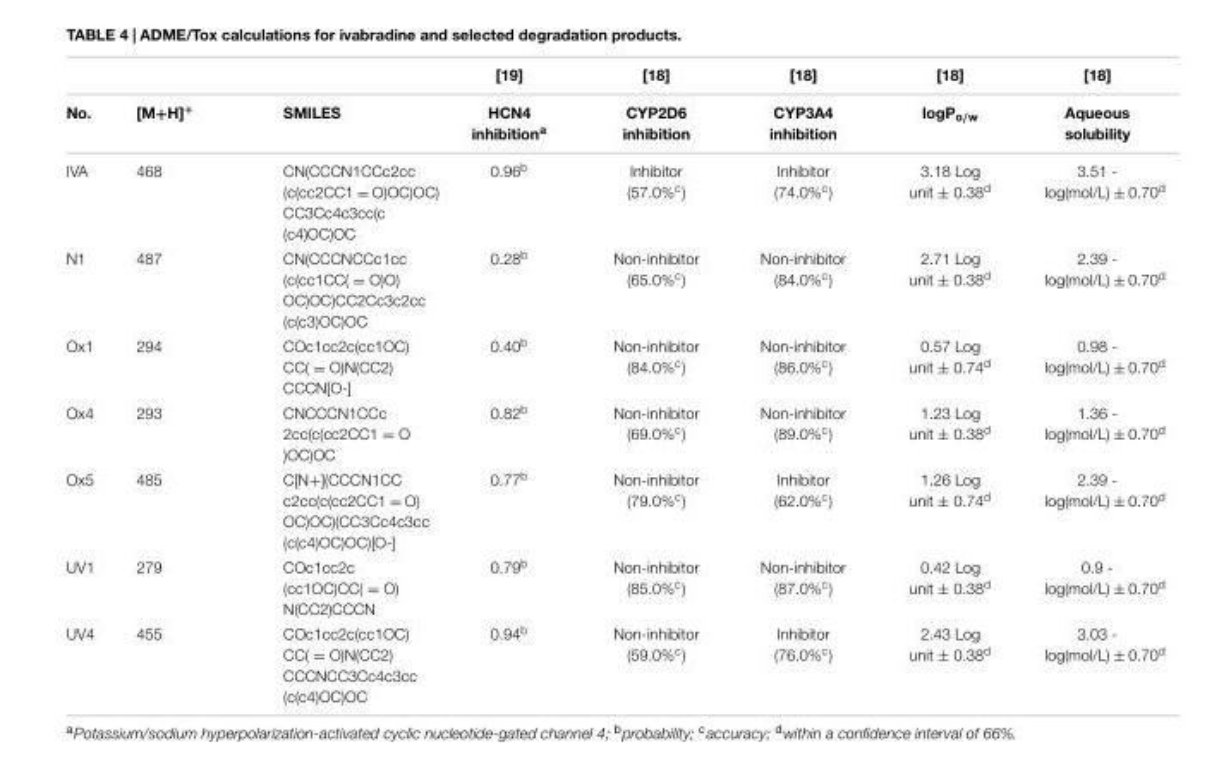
<table><thead><tr><td rowspan="2">No.</td><td rowspan="2">[M+H]<sup>+</sup></td><td rowspan="2">SMILES</td><td rowspan="2">[19] HCN4 inhibitiona</td><td rowspan="2">[18] CYP2D6 inhibition</td><td rowspan="2">[18] CYP3A4 inhibition</td><td rowspan="2">[18] logPo/w</td><td rowspan="2">[18] Aqueous solubility</td></tr><tr></tr></thead><tbody><tr><td>IVA</td><td>468</td><td>CN(CCCN1CCc2cc (c(cc2CC1 = O)OC)OC) CC3Cc4c3cc(c (c4)OC)OC</td><td>0.96<sup>b</sup></td><td>Inhibitor (57.0%<sup>c</sup>)</td><td>Inhibitor (74.0%<sup>c</sup>)</td><td>3.18 Log unit ± 0.38<sup>d</sup></td><td>3.51 - log(mol/L) ± 0.70<sup>d</sup></td></tr><tr><td>N1</td><td>487</td><td>CN(CCCNCCc1cc (c(cc1CC( = O)O) OC)OC)CC2Cc3c2cc (c(c3)OC)OC</td><td>0.28<sup>b</sup></td><td>Non-inhibitor (65.0%<sup>c</sup>)</td><td>Non-inhibitor (84.0%<sup>c</sup>)</td><td>2.71 Log unit ± 0.38<sup>d</sup></td><td>2.39 - log(mol/L) ± 0.70<sup>d</sup></td></tr><tr><td>Ox1</td><td>294</td><td>COc1cc2c(cc1OC) CC( = O)N(CC2) CCCN[O-]</td><td>0.40<sup>b</sup></td><td>Non-inhibitor (84.0%<sup>c</sup>)</td><td>Non-inhibitor (86.0%<sup>c</sup>)</td><td>0.57 Log unit ± 0.74<sup>d</sup></td><td>0.98 - log(mol/L) ± 0.70<sup>d</sup></td></tr><tr><td>Ox4</td><td>293</td><td>CNCCCN1CCc 2cc(c(cc2CC1 = O )OC)OC</td><td>0.82<sup>b</sup></td><td>Non-inhibitor (69.0%<sup>c</sup>)</td><td>Non-inhibitor (89.0%<sup>c</sup>)</td><td>1.23 Log unit ± 0.38<sup>d</sup></td><td>1.36 - log(mol/L) ± 0.70<sup>d</sup></td></tr><tr><td>Ox5</td><td>485</td><td>C[N+](CCCN1CC c2cc(c(cc2CC1 = O) OC)OC)(CC3Cc4c3cc (c(c4)OC)OC)[O-]</td><td>0.77<sup>b</sup></td><td>Non-inhibitor (79.0%<sup>c</sup>)</td><td>Inhibitor (62.0%<sup>c</sup>)</td><td>1.26 Log unit ± 0.74<sup>d</sup></td><td>2.39 - log(mol/L) ± 0.70<sup>d</sup></td></tr><tr><td>UV1</td><td>279</td><td>COc1cc2c (cc1OC)CC( = O) N(CC2)CCCN</td><td>0.79<sup>b</sup></td><td>Non-inhibitor (85.0%<sup>c</sup>)</td><td>Non-inhibitor (87.0%<sup>c</sup>)</td><td>0.42 Log unit ± 0.38<sup>d</sup></td><td>0.9 - log(mol/L) ± 0.70<sup>d</sup></td></tr><tr><td>UV4</td><td>455</td><td>COc1cc2c(cc1OC) CC( = O)N(CC2) CCCNCC3Cc4c3cc (c(c4)OC)OC</td><td>0.94<sup>b</sup></td><td>Non-inhibitor (59.0%<sup>c</sup>)</td><td>Inhibitor (76.0%<sup>c</sup>)</td><td>2.43 Log unit ± 0.38<sup>d</sup></td><td>3.03 - log(mol/L) ± 0.70<sup>d</sup></td></tr></tbody></table>